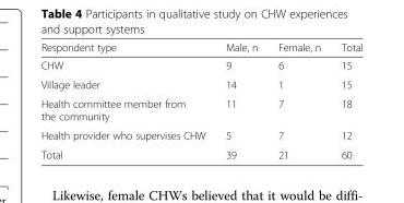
<table><thead><tr><td>Respondent type</td><td>Male, n</td><td>Female, n</td><td>Total</td></tr></thead><tbody><tr><td>CHW</td><td>9</td><td>6</td><td>15</td></tr><tr><td>Village leader</td><td>14</td><td>1</td><td>15</td></tr><tr><td>Health committee member from the community</td><td>11</td><td>7</td><td>18</td></tr><tr><td>Health provider who supervises CHW</td><td>5</td><td>7</td><td>12</td></tr><tr><td>Total</td><td>39</td><td>21</td><td>60</td></tr></tbody></table>